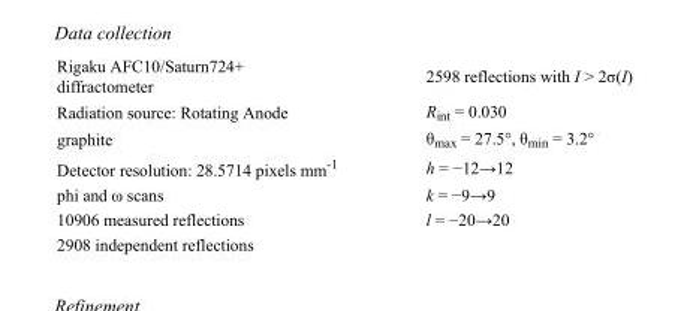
<table><tbody><tr><td>Rigaku AFC10/Saturn724+ diffractometer</td><td>2598 reflections with I &gt; 2σ(I)</td></tr><tr><td>Radiation source: Rotating Anode</td><td>R<sub>int</sub> = 0.030</td></tr><tr><td>graphite</td><td>θ<sub>max</sub> = 27.5°, θ<sub>min</sub> = 3.2°</td></tr><tr><td>Detector resolution: 28.5714 pixels mm<sup>-1</sup></td><td>h = −12→12</td></tr><tr><td>phi and ω scans</td><td>k = −9→9</td></tr><tr><td>10906 measured reflections</td><td>l = −20→20</td></tr><tr><td>2908 independent reflections</td><td></td></tr></tbody></table>